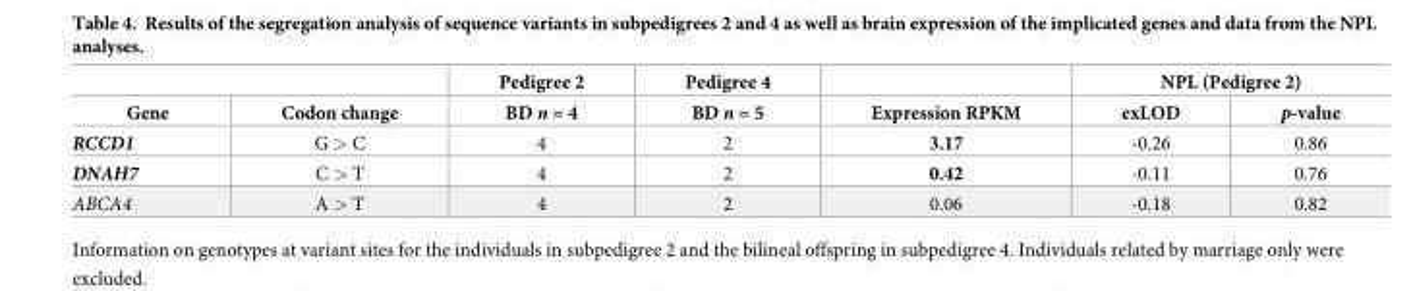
<table><thead><tr><td rowspan="2">Gene</td><td rowspan="2">Codon change</td><td rowspan="2">Pedigree 2 BD n = 4</td><td rowspan="2">Pedigree 4 BD n = 5</td><td rowspan="2">Expression RPKM</td><td colspan="2">NPL (Pedigree 2)</td></tr><tr><td>exLOD</td><td>p-value</td></tr></thead><tbody><tr><td>RCCD1</td><td>G &gt; C</td><td>4</td><td>2</td><td>3.17</td><td>-0.26</td><td>0.86</td></tr><tr><td>DNAH7</td><td>C &gt; T</td><td>4</td><td>2</td><td>0.42</td><td>-0.11</td><td>0.76</td></tr><tr><td>ABCA4</td><td>A &gt; T</td><td>4</td><td>2</td><td>0.06</td><td>-0.18</td><td>0.82</td></tr></tbody></table>